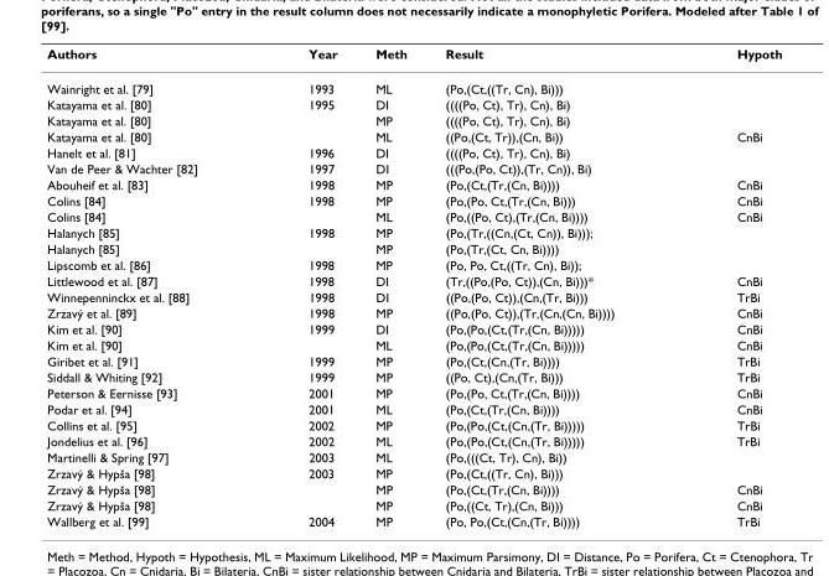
<table><thead><tr><td>Authors</td><td>Year</td><td>Meth</td><td>Result</td><td>Hypoth</td></tr></thead><tbody><tr><td>Wainright et al. [79]</td><td>1993</td><td>ML</td><td>(Po,(Ct,((Tr, Cn), Bi)))</td><td></td></tr><tr><td>Katayama et al. [80]</td><td>1995</td><td>DI</td><td>((((Po, Ct), Tr), Cn), Bi)</td><td></td></tr><tr><td>Katayama et al. [80]</td><td></td><td>MP</td><td>((((Po, Ct), Tr), Cn), Bi)</td><td></td></tr><tr><td>Katayama et al. [80]</td><td></td><td>ML</td><td>((Po,(Ct, Tr)),(Cn, Bi))</td><td>CnBi</td></tr><tr><td>Hanelt et al. [81]</td><td>1996</td><td>DI</td><td>((((Po, Ct), Tr), Cn), Bi)</td><td></td></tr><tr><td>Van de Peer &amp; Wachter [82]</td><td>1997</td><td>DI</td><td>(((Po,(Po, Ct)),(Tr, Cn)), Bi)</td><td></td></tr><tr><td>Abouheif et al. [83]</td><td>1998</td><td>MP</td><td>(Po,(Ct,(Tr,(Cn, Bi))))</td><td>CnBi</td></tr><tr><td>Colins [84]</td><td>1998</td><td>MP</td><td>(Po,(Po, Ct,(Tr,(Cn, Bi)))</td><td>CnBi</td></tr><tr><td>Colins [84]</td><td></td><td>ML</td><td>(Po,((Po, Ct),(Tr,(Cn, Bi))))</td><td>CnBi</td></tr><tr><td>Halanych [85]</td><td>1998</td><td>MP</td><td>(Po,(Tr,((Cn,(Ct, Cn)), Bi)));</td><td></td></tr><tr><td>Halanych [85]</td><td></td><td>MP</td><td>(Po,(Tr,(Ct, Cn, Bi))))</td><td></td></tr><tr><td>Lipscomb et al. [86]</td><td>1998</td><td>MP</td><td>(Po, Po, Ct,((Tr, Cn), Bi));</td><td></td></tr><tr><td>Littlewood et al. [87]</td><td>1998</td><td>DI</td><td>(Tr,((Po,(Po, Ct)),(Cn, Bi)))*</td><td>CnBi</td></tr><tr><td>Winnepenninckx et al. [88]</td><td>1998</td><td>DI</td><td>((Po,(Po, Ct)),(Cn,(Tr, Bi)))</td><td>TrBi</td></tr><tr><td>Zrzavý et al. [89]</td><td>1998</td><td>MP</td><td>((Po,(Po, Ct)),(Tr,(Cn,(Cn, Bi))))</td><td>CnBi</td></tr><tr><td>Kim et al. [90]</td><td>1999</td><td>DI</td><td>(Po,(Po,(Ct,(Tr,(Cn, Bi)))))</td><td>CnBi</td></tr><tr><td>Kim et al. [90]</td><td></td><td>ML</td><td>(Po,(Po,(Ct,(Tr,(Cn, Bi)))))</td><td>CnBi</td></tr><tr><td>Giribet et al. [91]</td><td>1999</td><td>MP</td><td>(Po,(Ct,(Cn,(Tr, Bi))))</td><td>TrBi</td></tr><tr><td>Siddall &amp; Whiting [92]</td><td>1999</td><td>MP</td><td>((Po, Ct),(Cn,(Tr, Bi)))</td><td>TrBi</td></tr><tr><td>Peterson &amp; Eernisse [93]</td><td>2001</td><td>MP</td><td>(Po,(Po, Ct,(Tr,(Cn, Bi))))</td><td>CnBi</td></tr><tr><td>Podar et al. [94]</td><td>2001</td><td>ML</td><td>(Po,(Ct,(Tr,(Cn, Bi))))</td><td>CnBi</td></tr><tr><td>Collins et al. [95]</td><td>2002</td><td>MP</td><td>(Po,(Po,(Ct,(Cn,(Tr, Bi)))))</td><td>TrBi</td></tr><tr><td>Jondelius et al. [96]</td><td>2002</td><td>ML</td><td>(Po,(Po,(Ct,(Cn,(Tr, Bi)))))</td><td>TrBi</td></tr><tr><td>Martinelli &amp; Spring [97]</td><td>2003</td><td>ML</td><td>(Po,(((Ct, Tr), Cn), Bi))</td><td></td></tr><tr><td>Zrzavý &amp; Hypša [98]</td><td>2003</td><td>MP</td><td>(Po,(Ct,((Tr, Cn), Bi)))</td><td></td></tr><tr><td>Zrzavý &amp; Hypša [98]</td><td></td><td>MP</td><td>(Po,(Ct,(Tr,(Cn, Bi))))</td><td>CnBi</td></tr><tr><td>Zrzavý &amp; Hypša [98]</td><td></td><td>MP</td><td>(Po,((Ct, Tr),(Cn, Bi)))</td><td>CnBi</td></tr><tr><td>Wallberg et al. [99]</td><td>2004</td><td>MP</td><td>(Po, Po,(Ct,(Cn,(Tr, Bi))))</td><td>TrBi</td></tr></tbody></table>